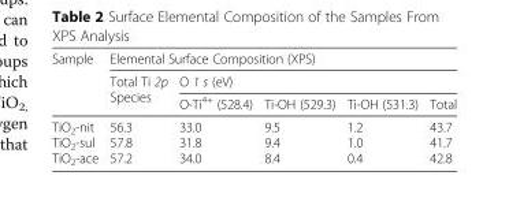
<table><thead><tr><td rowspan="3">Sample</td><td colspan="5">Elemental Surface Composition (XPS)</td></tr><tr><td rowspan="2">Total Ti 2p Species</td><td colspan="4">O 1 s (eV)</td></tr><tr><td>O-Ti<sup>4+</sup> (528.4)</td><td>Ti-OH (529.3)</td><td>Ti-OH (531.3)</td><td>Total</td></tr></thead><tbody><tr><td>TiO<sub>2</sub>-nit TiO<sub>2</sub>-sul TiO<sub>2</sub>-ace</td><td>56.3 57.8 57.2</td><td>33.0 31.8 34.0</td><td>9.5 9.4 8.4</td><td>1.2 1.0 0.4</td><td>43.7 41.7 42.8</td></tr></tbody></table>